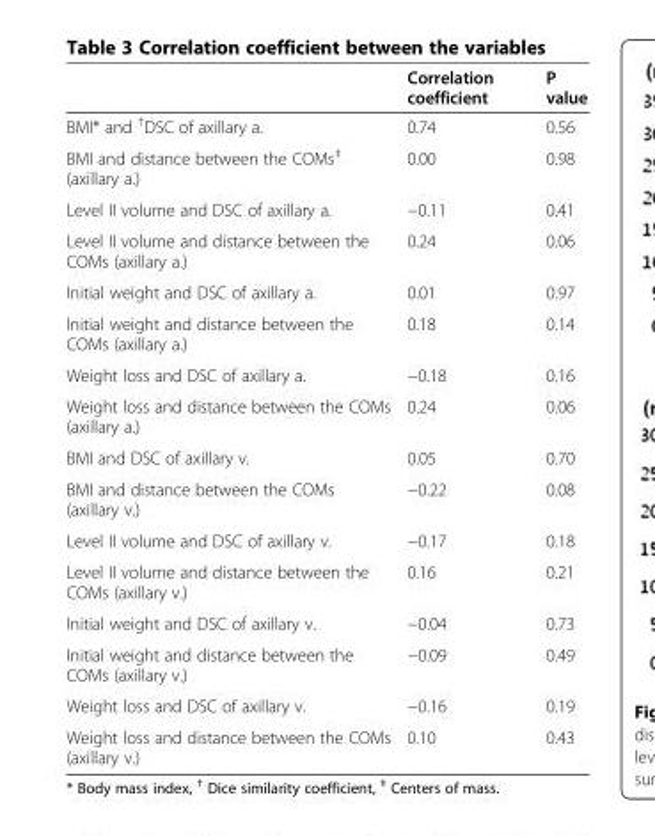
<table><thead><tr><td></td><td>Correlation coefficient</td><td>P value</td></tr></thead><tbody><tr><td>BMI* and <sup>†</sup>DSC of axillary a.</td><td>0.74</td><td>0.56</td></tr><tr><td>BMI and distance between the COMs<sup>‡</sup> (axillary a.)</td><td>0.00</td><td>0.98</td></tr><tr><td>Level II volume and DSC of axillary a.</td><td>−0.11</td><td>0.41</td></tr><tr><td>Level II volume and distance between the COMs (axillary a.)</td><td>0.24</td><td>0.06</td></tr><tr><td>Initial weight and DSC of axillary a.</td><td>0.01</td><td>0.97</td></tr><tr><td>Initial weight and distance between the COMs (axillary a.)</td><td>0.18</td><td>0.14</td></tr><tr><td>Weight loss and DSC of axillary a.</td><td>−0.18</td><td>0.16</td></tr><tr><td>Weight loss and distance between the COMs (axillary a.)</td><td>0.24</td><td>0.06</td></tr><tr><td>BMI and DSC of axillary v.</td><td>0.05</td><td>0.70</td></tr><tr><td>BMI and distance between the COMs (axillary v.)</td><td>−0.22</td><td>0.08</td></tr><tr><td>Level II volume and DSC of axillary v.</td><td>−0.17</td><td>0.18</td></tr><tr><td>Level II volume and distance between the COMs (axillary v.)</td><td>0.16</td><td>0.21</td></tr><tr><td>Initial weight and DSC of axillary v.</td><td>−0.04</td><td>0.73</td></tr><tr><td>Initial weight and distance between the COMs (axillary v.)</td><td>−0.09</td><td>0.49</td></tr><tr><td>Weight loss and DSC of axillary v.</td><td>−0.16</td><td>0.19</td></tr><tr><td>Weight loss and distance between the COMs (axillary v.)</td><td>0.10</td><td>0.43</td></tr></tbody></table>